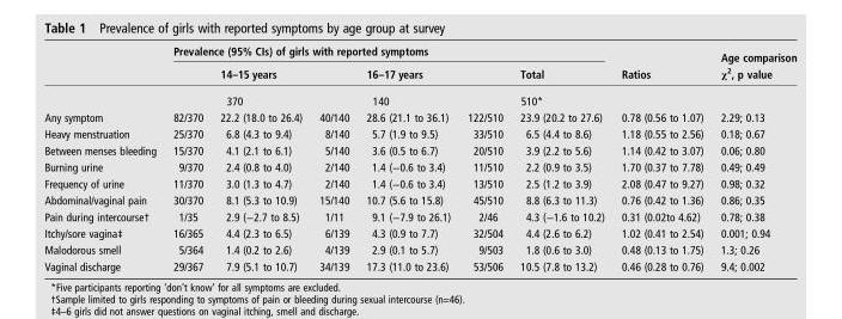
<table><thead><tr><td rowspan="2"></td><td colspan="6">Prevalence (95% CIs) of girls with reported symptoms</td><td rowspan="2">Ratios</td><td rowspan="2">Age comparison χ<sup>2</sup>, p value</td></tr><tr><td></td><td>14–15 years</td><td></td><td>16–17 years</td><td></td><td>Total</td></tr></thead><tbody><tr><td></td><td></td><td>370</td><td></td><td>140</td><td></td><td>510*</td><td></td><td></td></tr><tr><td>Any symptom</td><td>82/370</td><td>22.2 (18.0 to 26.4)</td><td>40/140</td><td>28.6 (21.1 to 36.1)</td><td>122/510</td><td>23.9 (20.2 to 27.6)</td><td>0.78 (0.56 to 1.07)</td><td>2.29; 0.13</td></tr><tr><td>Heavy menstruation</td><td>25/370</td><td>6.8 (4.3 to 9.4)</td><td>8/140</td><td>5.7 (1.9 to 9.5)</td><td>33/510</td><td>6.5 (4.4 to 8.6)</td><td>1.18 (0.55 to 2.56)</td><td>0.18; 0.67</td></tr><tr><td>Between menses bleeding</td><td>15/370</td><td>4.1 (2.1 to 6.1)</td><td>5/140</td><td>3.6 (0.5 to 6.7)</td><td>20/510</td><td>3.9 (2.2 to 5.6)</td><td>1.14 (0.42 to 3.07)</td><td>0.06; 0.80</td></tr><tr><td>Burning urine</td><td>9/370</td><td>2.4 (0.8 to 4.0)</td><td>2/140</td><td>1.4 (−0.6 to 3.4)</td><td>11/510</td><td>2.2 (0.9 to 3.5)</td><td>1.70 (0.37 to 7.78)</td><td>0.49; 0.49</td></tr><tr><td>Frequency of urine</td><td>11/370</td><td>3.0 (1.3 to 4.7)</td><td>2/140</td><td>1.4 (−0.6 to 3.4)</td><td>13/510</td><td>2.5 (1.2 to 3.9)</td><td>2.08 (0.47 to 9.27)</td><td>0.98; 0.32</td></tr><tr><td>Abdominal/vaginal pain</td><td>30/370</td><td>8.1 (5.3 to 10.9)</td><td>15/140</td><td>10.7 (5.6 to 15.8)</td><td>45/510</td><td>8.8 (6.3 to 11.3)</td><td>0.76 (0.42 to 1.36)</td><td>0.86; 0.35</td></tr><tr><td>Pain during intercourse†</td><td>1/35</td><td>2.9 (−2.7 to 8.5)</td><td>1/11</td><td>9.1 (−7.9 to 26.1)</td><td>2/46</td><td>4.3 (−1.6 to 10.2)</td><td>0.31 (0.02to 4.62)</td><td>0.78; 0.38</td></tr><tr><td>Itchy/sore vagina‡</td><td>16/365</td><td>4.4 (2.3 to 6.5)</td><td>6/139</td><td>4.3 (0.9 to 7.7)</td><td>32/504</td><td>4.4 (2.6 to 6.2)</td><td>1.02 (0.41 to 2.54)</td><td>0.001; 0.94</td></tr><tr><td>Malodorous smell</td><td>5/364</td><td>1.4 (0.2 to 2.6)</td><td>4/139</td><td>2.9 (0.1 to 5.7)</td><td>9/503</td><td>1.8 (0.6 to 3.0)</td><td>0.48 (0.13 to 1.75)</td><td>1.3; 0.26</td></tr><tr><td>Vaginal discharge</td><td>29/367</td><td>7.9 (5.1 to 10.7)</td><td>34/139</td><td>17.3 (11.0 to 23.6)</td><td>53/506</td><td>10.5 (7.8 to 13.2)</td><td>0.46 (0.28 to 0.76)</td><td>9.4; 0.002</td></tr></tbody></table>